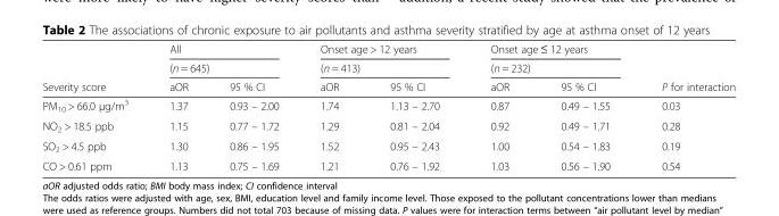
<table><thead><tr><td rowspan="3">Severity score</td><td rowspan="2" colspan="2">All (n = 645)</td><td rowspan="2" colspan="2">Onset age &gt; 12 years (n = 413)</td><td rowspan="2" colspan="2">Onset age ≤ 12 years (n = 232)</td><td rowspan="3">P for interaction</td></tr><tr></tr><tr><td>aOR</td><td>95 % CI</td><td>aOR</td><td>95 % CI</td><td>aOR</td><td>95 % CI</td></tr></thead><tbody><tr><td>PM<sub>10</sub> &gt; 66.0 μg/m<sup>3</sup></td><td>1.37</td><td>0.93 – 2.00</td><td>1.74</td><td>1.13 – 2.70</td><td>0.87</td><td>0.49 – 1.55</td><td>0.03</td></tr><tr><td>NO<sub>2</sub> &gt; 18.5 ppb</td><td>1.15</td><td>0.77 – 1.72</td><td>1.29</td><td>0.81 – 2.04</td><td>0.92</td><td>0.49 – 1.71</td><td>0.28</td></tr><tr><td>SO<sub>2</sub> &gt; 4.5 ppb</td><td>1.30</td><td>0.86 – 1.95</td><td>1.52</td><td>0.95 – 2.43</td><td>1.00</td><td>0.54 – 1.83</td><td>0.19</td></tr><tr><td>CO &gt; 0.61 ppm</td><td>1.13</td><td>0.75 – 1.69</td><td>1.21</td><td>0.76 – 1.92</td><td>1.03</td><td>0.56 – 1.90</td><td>0.54</td></tr></tbody></table>